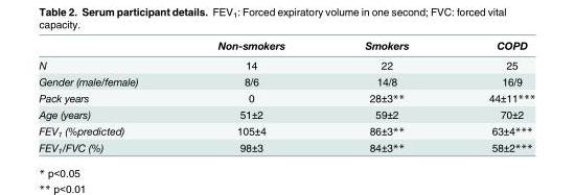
<table><thead><tr><td></td><td>Non-smokers</td><td>Smokers</td><td>COPD</td></tr></thead><tbody><tr><td>N</td><td>14</td><td>22</td><td>25</td></tr><tr><td>Gender (male/female)</td><td>8/6</td><td>14/8</td><td>16/9</td></tr><tr><td>Pack years</td><td>0</td><td>28±3**</td><td>44±11***</td></tr><tr><td>Age (years)</td><td>51±2</td><td>59±2</td><td>70±2</td></tr><tr><td>FEV<sub>1</sub> (%predicted)</td><td>105±4</td><td>86±3**</td><td>63±4***</td></tr><tr><td>FEV<sub>1</sub>/FVC (%)</td><td>98±3</td><td>84±3**</td><td>58±2***</td></tr></tbody></table>